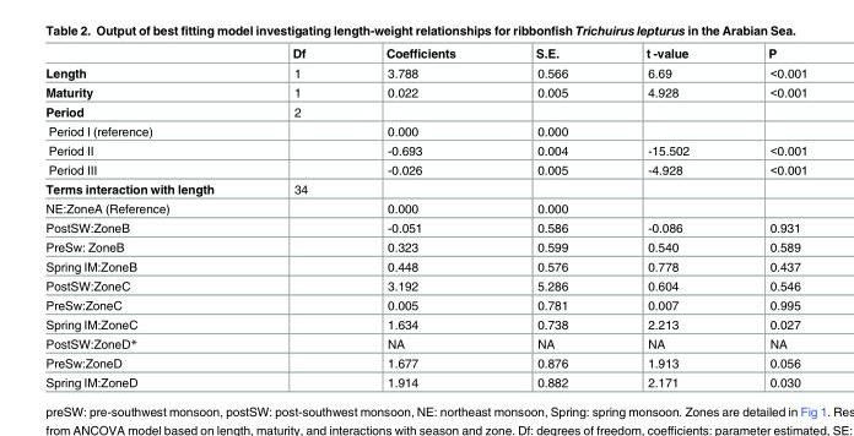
<table><thead><tr><td></td><td>Df</td><td>Coefficients</td><td>S.E.</td><td>t -value</td><td>P</td></tr></thead><tbody><tr><td>Length</td><td>1</td><td>3.788</td><td>0.566</td><td>6.69</td><td>&lt;0.001</td></tr><tr><td>Maturity</td><td>1</td><td>0.022</td><td>0.005</td><td>4.928</td><td>&lt;0.001</td></tr><tr><td>Period</td><td>2</td><td></td><td></td><td></td><td></td></tr><tr><td>Period I (reference)</td><td></td><td>0.000</td><td>0.000</td><td></td><td></td></tr><tr><td>Period II</td><td></td><td>-0.693</td><td>0.004</td><td>-15.502</td><td>&lt;0.001</td></tr><tr><td>Period III</td><td></td><td>-0.026</td><td>0.005</td><td>-4.928</td><td>&lt;0.001</td></tr><tr><td>Terms interaction with length</td><td>34</td><td></td><td></td><td></td><td></td></tr><tr><td>NE:ZoneA (Reference)</td><td></td><td>0.000</td><td>0.000</td><td></td><td></td></tr><tr><td>PostSW:ZoneB</td><td></td><td>-0.051</td><td>0.586</td><td>-0.086</td><td>0.931</td></tr><tr><td>PreSw: ZoneB</td><td></td><td>0.323</td><td>0.599</td><td>0.540</td><td>0.589</td></tr><tr><td>Spring IM:ZoneB</td><td></td><td>0.448</td><td>0.576</td><td>0.778</td><td>0.437</td></tr><tr><td>PostSW:ZoneC</td><td></td><td>3.192</td><td>5.286</td><td>0.604</td><td>0.546</td></tr><tr><td>PreSw:ZoneC</td><td></td><td>0.005</td><td>0.781</td><td>0.007</td><td>0.995</td></tr><tr><td>Spring IM:ZoneC</td><td></td><td>1.634</td><td>0.738</td><td>2.213</td><td>0.027</td></tr><tr><td>PostSW:ZoneD*</td><td></td><td>NA</td><td>NA</td><td>NA</td><td>NA</td></tr><tr><td>PreSw:ZoneD</td><td></td><td>1.677</td><td>0.876</td><td>1.913</td><td>0.056</td></tr><tr><td>Spring IM:ZoneD</td><td></td><td>1.914</td><td>0.882</td><td>2.171</td><td>0.030</td></tr></tbody></table>